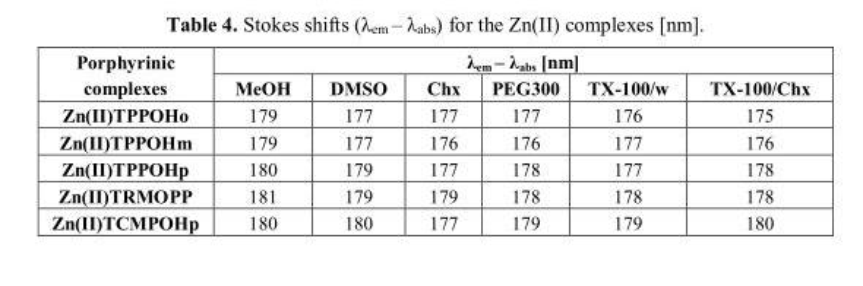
<table><thead><tr><td rowspan="2">Porphyrinic complexes</td><td colspan="6">λ<sub>em</sub> – λ<sub>abs</sub> [nm]</td></tr><tr><td>MeOH</td><td>DMSO</td><td>Chx</td><td>PEG300</td><td>TX-100/w</td><td>TX-100/Chx</td></tr></thead><tbody><tr><td>Zn(II)TPPOHo</td><td>179</td><td>177</td><td>177</td><td>177</td><td>176</td><td>175</td></tr><tr><td>Zn(II)TPPOHm</td><td>179</td><td>177</td><td>176</td><td>176</td><td>177</td><td>176</td></tr><tr><td>Zn(II)TPPOHp</td><td>180</td><td>179</td><td>177</td><td>178</td><td>177</td><td>178</td></tr><tr><td>Zn(II)TRMOPP</td><td>181</td><td>179</td><td>179</td><td>178</td><td>178</td><td>178</td></tr><tr><td>Zn(II)TCMPOHp</td><td>180</td><td>180</td><td>177</td><td>179</td><td>179</td><td>180</td></tr></tbody></table>